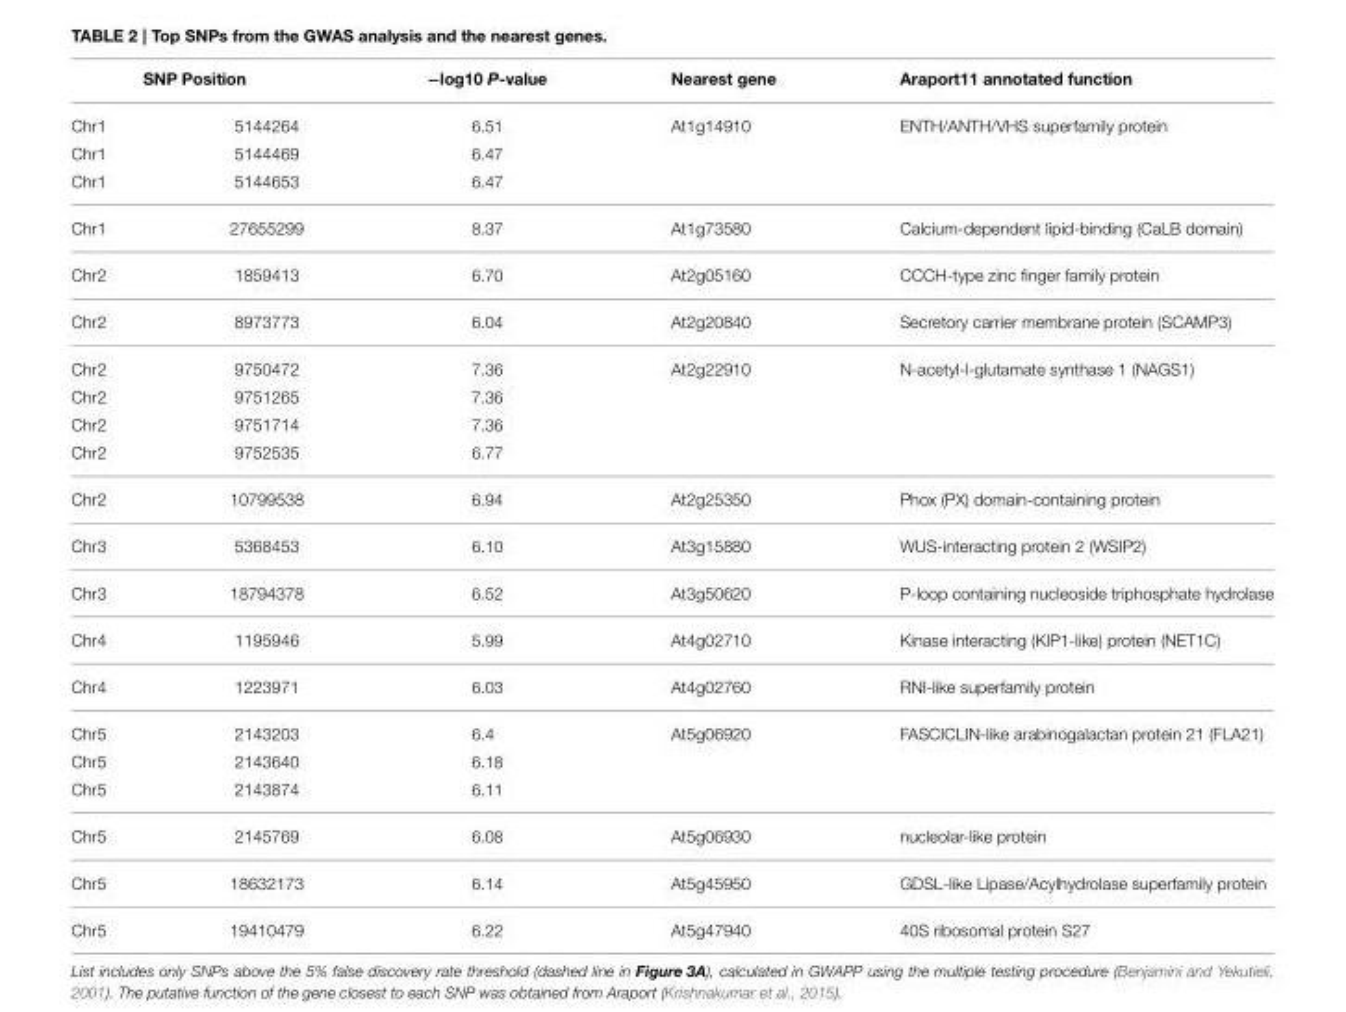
<table><thead><tr><td colspan="2">SNP Position</td><td rowspan="2">−log10 P-value 6.51</td><td rowspan="2">Nearest gene At1g14910</td><td rowspan="2">Araport11 annotated function ENTH/ANTH/VHS superfamily protein</td></tr><tr><td>Chr1</td><td>5144264</td></tr></thead><tbody><tr><td>Chr1</td><td>5144469</td><td>6.47</td><td></td><td></td></tr><tr><td>Chr1</td><td>5144653</td><td>6.47</td><td></td><td></td></tr><tr><td>Chr1</td><td>27655299</td><td>8.37</td><td>At1g73580</td><td>Calcium-dependent lipid-binding (CaLB domain)</td></tr><tr><td>Chr2</td><td>1859413</td><td>6.70</td><td>At2g05160</td><td>CCCH-type zinc finger family protein</td></tr><tr><td>Chr2</td><td>8973773</td><td>6.04</td><td>At2g20840</td><td>Secretory carrier membrane protein (SCAMP3)</td></tr><tr><td>Chr2</td><td>9750472</td><td>7.36</td><td>At2g22910</td><td>N-acetyl-l-glutamate synthase 1 (NAGS1)</td></tr><tr><td>Chr2</td><td>9751265</td><td>7.36</td><td></td><td></td></tr><tr><td>Chr2</td><td>9751714</td><td>7.36</td><td></td><td></td></tr><tr><td>Chr2</td><td>9752535</td><td>6.77</td><td></td><td></td></tr><tr><td>Chr2</td><td>10799538</td><td>6.94</td><td>At2g25350</td><td>Phox (PX) domain-containing protein</td></tr><tr><td>Chr3</td><td>5368453</td><td>6.10</td><td>At3g15880</td><td>WUS-interacting protein 2 (WSIP2)</td></tr><tr><td>Chr3</td><td>18794378</td><td>6.52</td><td>At3g50620</td><td>P-loop containing nucleoside triphosphate hydrolase</td></tr><tr><td>Chr4</td><td>1195946</td><td>5.99</td><td>At4g02710</td><td>Kinase interacting (KIP1-like) protein (NET1C)</td></tr><tr><td>Chr4</td><td>1223971</td><td>6.03</td><td>At4g02760</td><td>RNI-like superfamily protein</td></tr><tr><td>Chr5</td><td>2143203</td><td>6.4</td><td>At5g06920</td><td>FASCICLIN-like arabinogalactan protein 21 (FLA21)</td></tr><tr><td>Chr5</td><td>2143640</td><td>6.18</td><td></td><td></td></tr><tr><td>Chr5</td><td>2143874</td><td>6.11</td><td></td><td></td></tr><tr><td>Chr5</td><td>2145769</td><td>6.08</td><td>At5g06930</td><td>nucleolar-like protein</td></tr><tr><td>Chr5</td><td>18632173</td><td>6.14</td><td>At5g45950</td><td>GDSL-like Lipase/Acylhydrolase superfamily protein</td></tr><tr><td>Chr5</td><td>19410479</td><td>6.22</td><td>At5g47940</td><td>40S ribosomal protein S27</td></tr></tbody></table>